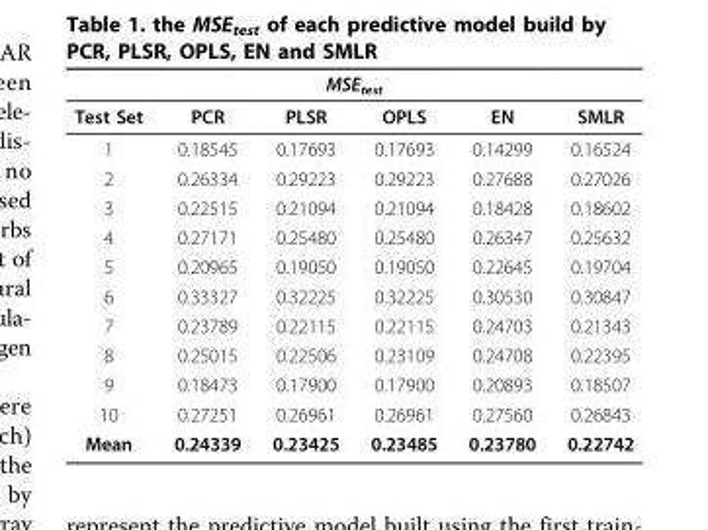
<table><thead><tr><td colspan="6">MSE<sub>test</sub></td></tr><tr><td>Test Set</td><td>PCR</td><td>PLSR</td><td>OPLS</td><td>EN</td><td>SMLR</td></tr></thead><tbody><tr><td>1</td><td>0.18545</td><td>0.17693</td><td>0.17693</td><td>0.14299</td><td>0.16524</td></tr><tr><td>2</td><td>0.26334</td><td>0.29223</td><td>0.29223</td><td>0.27688</td><td>0.27026</td></tr><tr><td>3</td><td>0.22515</td><td>0.21094</td><td>0.21094</td><td>0.18428</td><td>0.18602</td></tr><tr><td>4</td><td>0.27171</td><td>0.25480</td><td>0.25480</td><td>0.26347</td><td>0.25632</td></tr><tr><td>5</td><td>0.20965</td><td>0.19050</td><td>0.19050</td><td>0.22645</td><td>0.19704</td></tr><tr><td>6</td><td>0.33327</td><td>0.32225</td><td>0.32225</td><td>0.30530</td><td>0.30847</td></tr><tr><td>7</td><td>0.23789</td><td>0.22115</td><td>0.22115</td><td>0.24703</td><td>0.21343</td></tr><tr><td>8</td><td>0.25015</td><td>0.22506</td><td>0.23109</td><td>0.24708</td><td>0.22395</td></tr><tr><td>9</td><td>0.18473</td><td>0.17900</td><td>0.17900</td><td>0.20893</td><td>0.18507</td></tr><tr><td>10</td><td>0.27251</td><td>0.26961</td><td>0.26961</td><td>0.27560</td><td>0.26843</td></tr><tr><td>Mean</td><td>0.24339</td><td>0.23425</td><td>0.23485</td><td>0.23780</td><td>0.22742</td></tr></tbody></table>